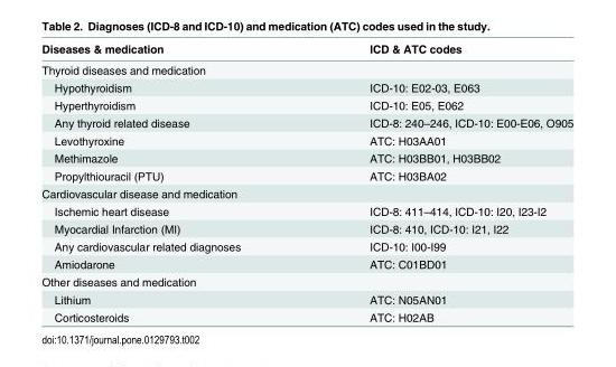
<table><thead><tr><td>Diseases &amp; medication</td><td>ICD &amp; ATC codes</td></tr></thead><tbody><tr><td colspan="2">Thyroid diseases and medication</td></tr><tr><td>Hypothyroidism</td><td>ICD-10: E02-03, E063</td></tr><tr><td>Hyperthyroidism</td><td>ICD-10: E05, E062</td></tr><tr><td>Any thyroid related disease</td><td>ICD-8: 240–246, ICD-10: E00-E06, O905</td></tr><tr><td>Levothyroxine</td><td>ATC: H03AA01</td></tr><tr><td>Methimazole</td><td>ATC: H03BB01, H03BB02</td></tr><tr><td>Propylthiouracil (PTU)</td><td>ATC: H03BA02</td></tr><tr><td colspan="2">Cardiovascular disease and medication</td></tr><tr><td>Ischemic heart disease</td><td>ICD-8: 411–414, ICD-10: I20, I23-I2</td></tr><tr><td>Myocardial Infarction (MI)</td><td>ICD-8: 410, ICD-10: I21, I22</td></tr><tr><td>Any cardiovascular related diagnoses</td><td>ICD-10: I00-I99</td></tr><tr><td>Amiodarone</td><td>ATC: C01BD01</td></tr><tr><td colspan="2">Other diseases and medication</td></tr><tr><td>Lithium</td><td>ATC: N05AN01</td></tr><tr><td>Corticosteroids</td><td>ATC: H02AB</td></tr></tbody></table>